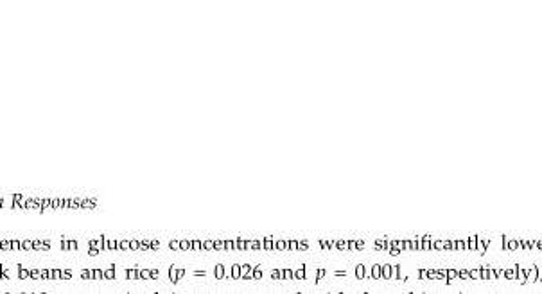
<table><thead><tr><td>Characteristic</td><td>Mean ± SEM</td><td>Range of Values</td></tr></thead><tbody><tr><td>Age (yrs)</td><td>36 ± 4</td><td>21–58</td></tr><tr><td>Weight (kg)</td><td>67.7 ± 2.8</td><td>55.9–82.0</td></tr><tr><td>Height (cm)</td><td>166.8 ± 1.6</td><td>160.0–180.3</td></tr><tr><td>BMI (kg/m<sup>2</sup>)</td><td>23.3 ± 0.9</td><td>19.2–28.7</td></tr><tr><td>Triglycerides (mg/dL)</td><td>100.8 ± 16.6</td><td>38–198</td></tr><tr><td>Total cholesterol (mg/dL)</td><td>180.2 ± 13.6</td><td>112–267</td></tr><tr><td>LDL (mg/dL)</td><td>108.6 ± 13.2</td><td>54–183</td></tr><tr><td>HDL (mg/dL)</td><td>58.2 ± 3.75</td><td>41–83</td></tr><tr><td>VLDL (mg/dL)</td><td>17.9 ± 2.9</td><td>7–33</td></tr><tr><td>Hemoglobin (g/dL)</td><td>14.4 ± 0.5</td><td>12.3–16.3</td></tr></tbody></table>